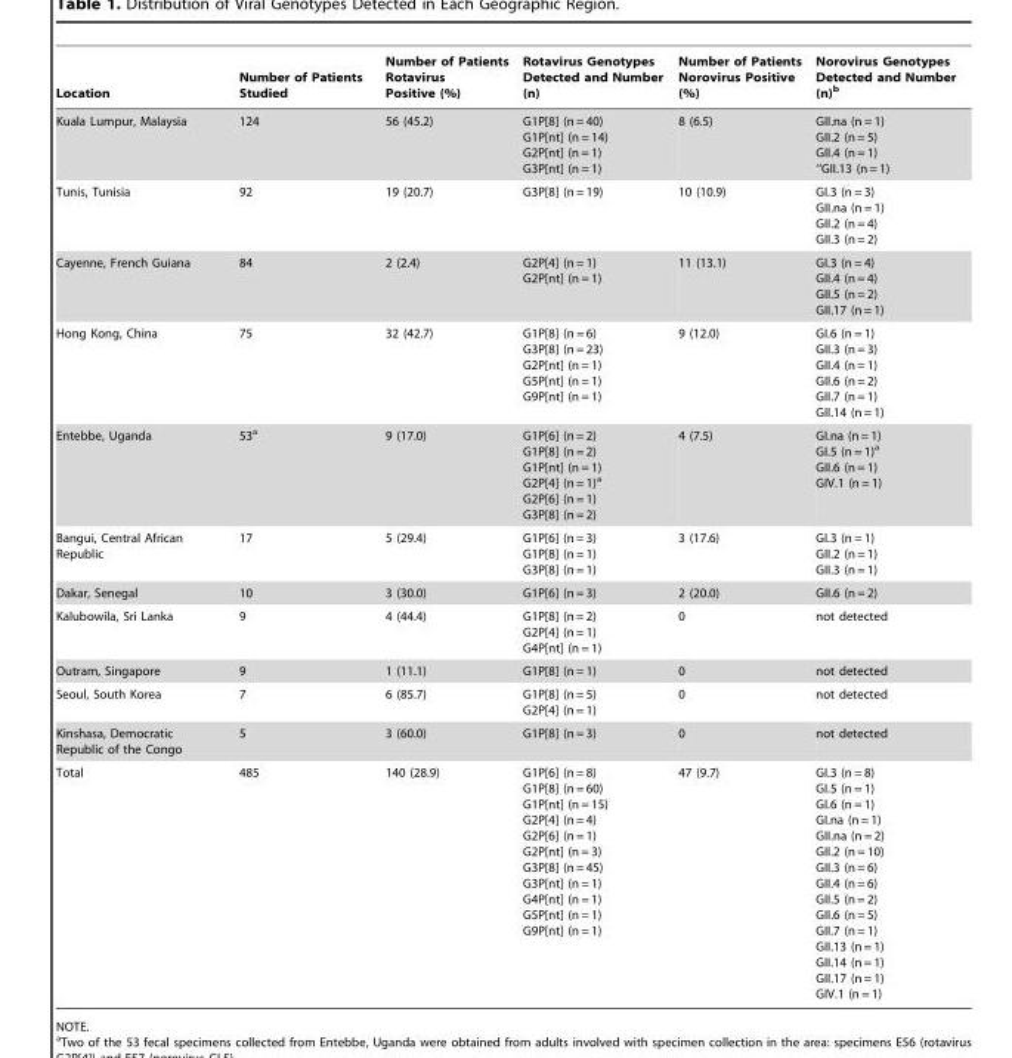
<table><thead><tr><td>Location</td><td>Number of Patients Studied</td><td>Number of Patients Rotavirus Positive (%)</td><td>Rotavirus Genotypes Detected and Number (n)</td><td>Number of Patients Norovirus Positive (%)</td><td>Norovirus Genotypes Detected and Number (n)<sup>b</sup></td></tr></thead><tbody><tr><td>Kuala Lumpur, Malaysia</td><td>124</td><td>56 (45.2)</td><td>G1P[8] (n = 40) G1P[nt] (n = 14) G2P[nt] (n = 1) G3P[nt] (n = 1)</td><td>8 (6.5)</td><td>GII.na (n = 1) GII.2 (n = 5) GII.4 (n = 1) ‘‘GII.13 (n = 1)</td></tr><tr><td>Tunis, Tunisia</td><td>92</td><td>19 (20.7)</td><td>G3P[8] (n = 19)</td><td>10 (10.9)</td><td>GI.3 (n = 3) GII.na (n = 1) GII.2 (n = 4) GII.3 (n = 2)</td></tr><tr><td>Cayenne, French Guiana</td><td>84</td><td>2 (2.4)</td><td>G2P[4] (n = 1) G2P[nt] (n = 1)</td><td>11 (13.1)</td><td>GI.3 (n = 4) GII.4 (n = 4) GII.5 (n = 2) GII.17 (n = 1)</td></tr><tr><td>Hong Kong, China</td><td>75</td><td>32 (42.7)</td><td>G1P[8] (n = 6) G3P[8] (n = 23) G2P[nt] (n = 1) G5P[nt] (n = 1) G9P[nt] (n = 1)</td><td>9 (12.0)</td><td>GI.6 (n = 1) GII.3 (n = 3) GII.4 (n = 1) GII.6 (n = 2) GII.7 (n = 1) GII.14 (n = 1)</td></tr><tr><td>Entebbe, Uganda</td><td>53<sup>a</sup></td><td>9 (17.0)</td><td>G1P[6] (n = 2) G1P[8] (n = 2) G1P[nt] (n = 1) G2P[4] (n = 1)<sup>a</sup> G2P[6] (n = 1) G3P[8] (n = 2)</td><td>4 (7.5)</td><td>GI.na (n = 1) GI.5 (n = 1)<sup>a</sup> GII.6 (n = 1) GIV.1 (n = 1)</td></tr><tr><td>Bangui, Central African Republic</td><td>17</td><td>5 (29.4)</td><td>G1P[6] (n = 3) G1P[8] (n = 1) G3P[8] (n = 1)</td><td>3 (17.6)</td><td>GI.3 (n = 1) GII.2 (n = 1) GII.3 (n = 1)</td></tr><tr><td>Dakar, Senegal</td><td>10</td><td>3 (30.0)</td><td>G1P[6] (n = 3)</td><td>2 (20.0)</td><td>GII.6 (n = 2)</td></tr><tr><td>Kalubowila, Sri Lanka</td><td>9</td><td>4 (44.4)</td><td>G1P[8] (n = 2) G2P[4] (n = 1) G4P[nt] (n = 1)</td><td>0</td><td>not detected</td></tr><tr><td>Outram, Singapore</td><td>9</td><td>1 (11.1)</td><td>G1P[8] (n = 1)</td><td>0</td><td>not detected</td></tr><tr><td>Seoul, South Korea</td><td>7</td><td>6 (85.7)</td><td>G1P[8] (n = 5) G2P[4] (n = 1)</td><td>0</td><td>not detected</td></tr><tr><td>Kinshasa, Democratic Republic of the Congo</td><td>5</td><td>3 (60.0)</td><td>G1P[8] (n = 3)</td><td>0</td><td>not detected</td></tr><tr><td>Total</td><td>485</td><td>140 (28.9)</td><td>G1P[6] (n = 8) G1P[8] (n = 60) G1P[nt] (n = 15) G2P[4] (n = 4) G2P[6] (n = 1) G2P[nt] (n = 3) G3P[8] (n = 45) G3P[nt] (n = 1) G4P[nt] (n = 1) G5P[nt] (n = 1) G9P[nt] (n = 1)</td><td>47 (9.7)</td><td>GI.3 (n = 8) GI.5 (n = 1) GI.6 (n = 1) GI.na (n = 1) GII.na (n = 2) GII.2 (n = 10) GII.3 (n = 6) GII.4 (n = 6) GII.5 (n = 2) GII.6 (n = 5) GII.7 (n = 1) GII.13 (n = 1) GII.14 (n = 1) GII.17 (n = 1) GIV.1 (n = 1)</td></tr></tbody></table>